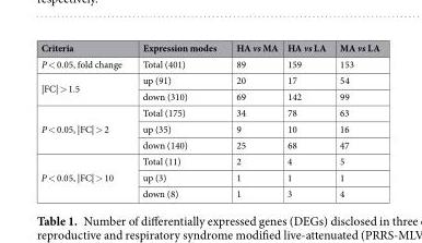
<table><thead><tr><td>Criteria</td><td>Expression modes</td><td>HA vs MA</td><td>HA vs LA</td><td>MA vs LA</td></tr></thead><tbody><tr><td>P &lt; 0.05, fold change</td><td>Total (401)</td><td>89</td><td>159</td><td>153</td></tr><tr><td rowspan="2">|FC| &gt; 1.5</td><td>up (91)</td><td>20</td><td>17</td><td>54</td></tr><tr><td>down (310)</td><td>69</td><td>142</td><td>99</td></tr><tr><td rowspan="3">P &lt; 0.05, |FC| &gt; 2</td><td>Total (175)</td><td>34</td><td>78</td><td>63</td></tr><tr><td>up (35)</td><td>9</td><td>10</td><td>16</td></tr><tr><td>down (140)</td><td>25</td><td>68</td><td>47</td></tr><tr><td rowspan="3">P &lt; 0.05, |FC| &gt; 10</td><td>Total (11)</td><td>2</td><td>4</td><td>5</td></tr><tr><td>up (3)</td><td>1</td><td>1</td><td>1</td></tr><tr><td>down (8)</td><td>1</td><td>3</td><td>4</td></tr></tbody></table>